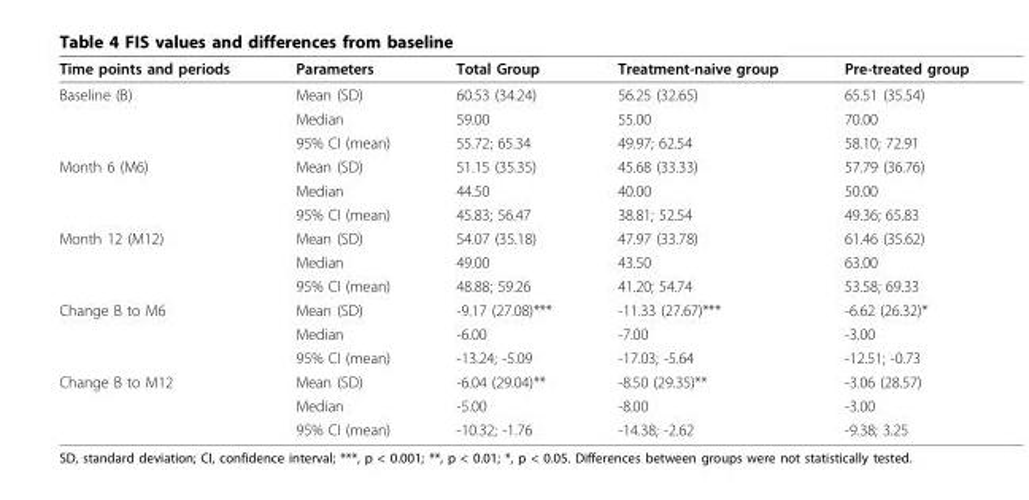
<table><thead><tr><td>Time points and periods</td><td>Parameters</td><td>Total Group</td><td>Treatment-naive group</td><td>Pre-treated group</td></tr></thead><tbody><tr><td rowspan="3">Baseline (B)</td><td>Mean (SD)</td><td>60.53 (34.24)</td><td>56.25 (32.65)</td><td>65.51 (35.54)</td></tr><tr><td>Median</td><td>59.00</td><td>55.00</td><td>70.00</td></tr><tr><td>95% CI (mean)</td><td>55.72; 65.34</td><td>49.97; 62.54</td><td>58.10; 72.91</td></tr><tr><td rowspan="3">Month 6 (M6)</td><td>Mean (SD)</td><td>51.15 (35.35)</td><td>45.68 (33.33)</td><td>57.79 (36.76)</td></tr><tr><td>Median</td><td>44.50</td><td>40.00</td><td>50.00</td></tr><tr><td>95% CI (mean)</td><td>45.83; 56.47</td><td>38.81; 52.54</td><td>49.36; 65.83</td></tr><tr><td rowspan="3">Month 12 (M12)</td><td>Mean (SD)</td><td>54.07 (35.18)</td><td>47.97 (33.78)</td><td>61.46 (35.62)</td></tr><tr><td>Median</td><td>49.00</td><td>43.50</td><td>63.00</td></tr><tr><td>95% CI (mean)</td><td>48.88; 59.26</td><td>41.20; 54.74</td><td>53.58; 69.33</td></tr><tr><td rowspan="3">Change B to M6</td><td>Mean (SD)</td><td>-9.17 (27.08)***</td><td>-11.33 (27.67)***</td><td>-6.62 (26.32)*</td></tr><tr><td>Median</td><td>-6.00</td><td>-7.00</td><td>-3.00</td></tr><tr><td>95% CI (mean)</td><td>-13.24; -5.09</td><td>-17.03; -5.64</td><td>-12.51; -0.73</td></tr><tr><td rowspan="3">Change B to M12</td><td>Mean (SD)</td><td>-6.04 (29.04)**</td><td>-8.50 (29.35)**</td><td>-3.06 (28.57)</td></tr><tr><td>Median</td><td>-5.00</td><td>-8.00</td><td>-3.00</td></tr><tr><td>95% CI (mean)</td><td>-10.32; -1.76</td><td>-14.38; -2.62</td><td>-9.38; 3.25</td></tr></tbody></table>